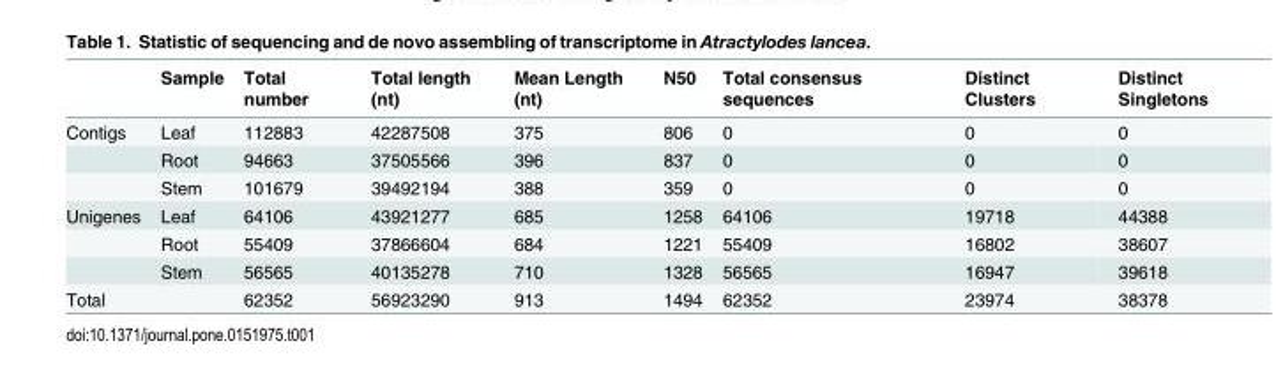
<table><thead><tr><td></td><td>Sample</td><td>Total number</td><td>Total length (nt)</td><td>Mean Length (nt)</td><td>N50</td><td>Total consensus sequences</td><td>Distinct Clusters</td><td>Distinct Singletons</td></tr></thead><tbody><tr><td rowspan="3">Contigs</td><td>Leaf</td><td>112883</td><td>42287508</td><td>375</td><td>806</td><td>0</td><td>0</td><td>0</td></tr><tr><td>Root</td><td>94663</td><td>37505566</td><td>396</td><td>837</td><td>0</td><td>0</td><td>0</td></tr><tr><td>Stem</td><td>101679</td><td>39492194</td><td>388</td><td>359</td><td>0</td><td>0</td><td>0</td></tr><tr><td rowspan="3">Unigenes</td><td>Leaf</td><td>64106</td><td>43921277</td><td>685</td><td>1258</td><td>64106</td><td>19718</td><td>44388</td></tr><tr><td>Root</td><td>55409</td><td>37866604</td><td>684</td><td>1221</td><td>55409</td><td>16802</td><td>38607</td></tr><tr><td>Stem</td><td>56565</td><td>40135278</td><td>710</td><td>1328</td><td>56565</td><td>16947</td><td>39618</td></tr><tr><td>Total</td><td></td><td>62352</td><td>56923290</td><td>913</td><td>1494</td><td>62352</td><td>23974</td><td>38378</td></tr></tbody></table>